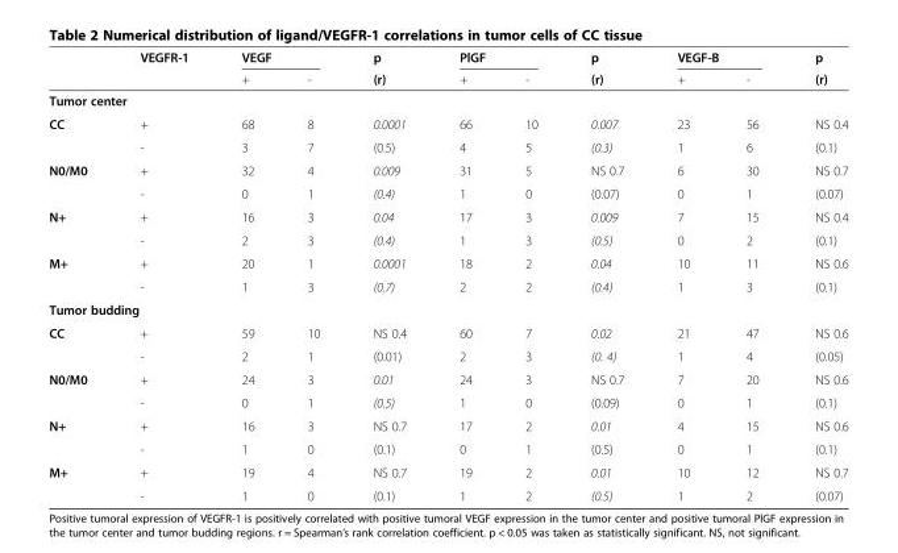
<table><thead><tr><td rowspan="2"></td><td rowspan="2">VEGFR-1</td><td colspan="2">VEGF</td><td rowspan="2">p (r)</td><td colspan="2">PlGF</td><td rowspan="2">p (r)</td><td colspan="2">VEGF-B</td><td rowspan="2">p (r)</td></tr><tr><td>+</td><td>-</td><td>+</td><td>-</td><td>+</td><td>-</td></tr></thead><tbody><tr><td colspan="11">Tumor center</td></tr><tr><td rowspan="2">CC</td><td>+</td><td>68</td><td>8</td><td>0.0001</td><td>66</td><td>10</td><td>0.007</td><td>23</td><td>56</td><td>NS 0.4</td></tr><tr><td>-</td><td>3</td><td>7</td><td>(0.5)</td><td>4</td><td>5</td><td>(0.3)</td><td>1</td><td>6</td><td>(0.1)</td></tr><tr><td rowspan="2">N0/M0</td><td>+</td><td>32</td><td>4</td><td>0.009</td><td>31</td><td>5</td><td>NS 0.7</td><td>6</td><td>30</td><td>NS 0.7</td></tr><tr><td>-</td><td>0</td><td>1</td><td>(0.4)</td><td>1</td><td>0</td><td>(0.07)</td><td>0</td><td>1</td><td>(0.07)</td></tr><tr><td rowspan="2">N+</td><td>+</td><td>16</td><td>3</td><td>0.04</td><td>17</td><td>3</td><td>0.009</td><td>7</td><td>15</td><td>NS 0.4</td></tr><tr><td>-</td><td>2</td><td>3</td><td>(0.4)</td><td>1</td><td>3</td><td>(0.5)</td><td>0</td><td>2</td><td>(0.1)</td></tr><tr><td rowspan="2">M+</td><td>+</td><td>20</td><td>1</td><td>0.0001</td><td>18</td><td>2</td><td>0.04</td><td>10</td><td>11</td><td>NS 0.6</td></tr><tr><td>-</td><td>1</td><td>3</td><td>(0.7)</td><td>2</td><td>2</td><td>(0.4)</td><td>1</td><td>3</td><td>(0.1)</td></tr><tr><td colspan="11">Tumor budding</td></tr><tr><td rowspan="2">CC</td><td>+</td><td>59</td><td>10</td><td>NS 0.4</td><td>60</td><td>7</td><td>0.02</td><td>21</td><td>47</td><td>NS 0.6</td></tr><tr><td>-</td><td>2</td><td>1</td><td>(0.01)</td><td>2</td><td>3</td><td>(0. 4)</td><td>1</td><td>4</td><td>(0.05)</td></tr><tr><td rowspan="2">N0/M0</td><td>+</td><td>24</td><td>3</td><td>0.01</td><td>24</td><td>3</td><td>NS 0.7</td><td>7</td><td>20</td><td>NS 0.6</td></tr><tr><td>-</td><td>0</td><td>1</td><td>(0.5)</td><td>1</td><td>0</td><td>(0.09)</td><td>0</td><td>1</td><td>(0.1)</td></tr><tr><td rowspan="2">N+</td><td>+</td><td>16</td><td>3</td><td>NS 0.7</td><td>17</td><td>2</td><td>0.01</td><td>4</td><td>15</td><td>NS 0.6</td></tr><tr><td>-</td><td>1</td><td>0</td><td>(0.1)</td><td>0</td><td>1</td><td>(0.5)</td><td>0</td><td>1</td><td>(0.1)</td></tr><tr><td rowspan="2">M+</td><td>+</td><td>19</td><td>4</td><td>NS 0.7</td><td>19</td><td>2</td><td>0.01</td><td>10</td><td>12</td><td>NS 0.7</td></tr><tr><td>-</td><td>1</td><td>0</td><td>(0.1)</td><td>1</td><td>2</td><td>(0.5)</td><td>1</td><td>2</td><td>(0.07)</td></tr></tbody></table>